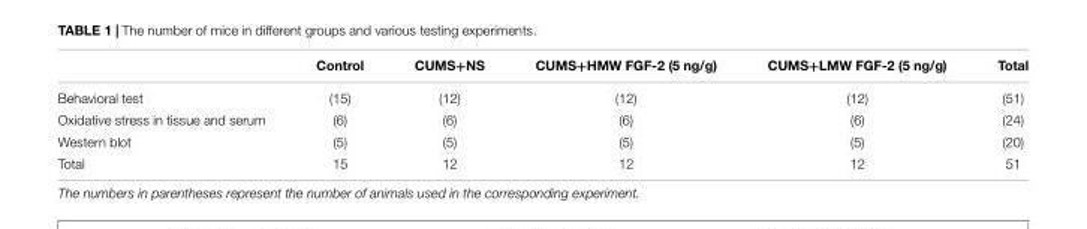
<table><thead><tr><td></td><td>Control</td><td>CUMS+NS</td><td>CUMS+HMW FGF-2 (5 ng/g)</td><td>CUMS+LMW FGF-2 (5 ng/g)</td><td>Total</td></tr></thead><tbody><tr><td>Behavioral test</td><td>(15)</td><td>(12)</td><td>(12)</td><td>(12)</td><td>(51)</td></tr><tr><td>Oxidative stress in tissue and serum</td><td>(6)</td><td>(6)</td><td>(6)</td><td>(6)</td><td>(24)</td></tr><tr><td>Western blot</td><td>(5)</td><td>(5)</td><td>(5)</td><td>(5)</td><td>(20)</td></tr><tr><td>Total</td><td>15</td><td>12</td><td>12</td><td>12</td><td>51</td></tr></tbody></table>